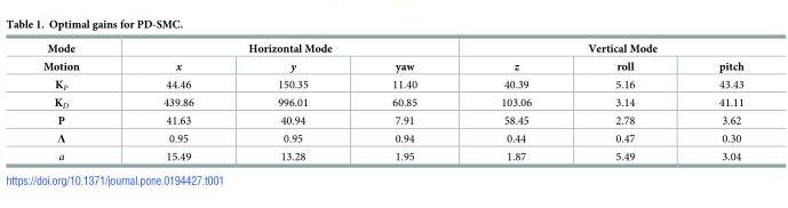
<table><thead><tr><td rowspan="2">Mode Motion</td><td colspan="3">Horizontal Mode</td><td colspan="3">Vertical Mode</td></tr><tr><td>x</td><td>y</td><td>yaw</td><td>z</td><td>roll</td><td>pitch</td></tr></thead><tbody><tr><td>K<sub>P</sub></td><td>44.46</td><td>150.35</td><td>11.40</td><td>40.39</td><td>5.16</td><td>43.43</td></tr><tr><td>K<sub>D</sub></td><td>439.86</td><td>996.01</td><td>60.85</td><td>103.06</td><td>3.14</td><td>41.11</td></tr><tr><td>P</td><td>41.63</td><td>40.94</td><td>7.91</td><td>58.45</td><td>2.78</td><td>3.62</td></tr><tr><td>Λ</td><td>0.95</td><td>0.95</td><td>0.94</td><td>0.44</td><td>0.47</td><td>0.30</td></tr><tr><td>a</td><td>15.49</td><td>13.28</td><td>1.95</td><td>1.87</td><td>5.49</td><td>3.04</td></tr></tbody></table>